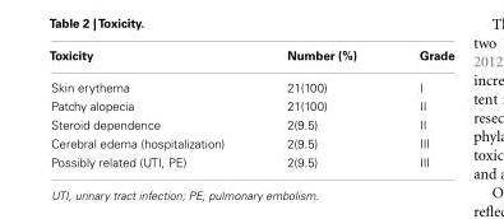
<table><thead><tr><td>Toxicity</td><td>Number (%)</td><td>Grade</td></tr></thead><tbody><tr><td>Skin erythema</td><td>21(100)</td><td>I</td></tr><tr><td>Patchy alopecia</td><td>21(100)</td><td>II</td></tr><tr><td>Steroid dependence</td><td>2(9.5)</td><td>II</td></tr><tr><td>Cerebral edema (hospitalization)</td><td>2(9.5)</td><td>III</td></tr><tr><td>Possibly related (UTI, PE)</td><td>2(9.5)</td><td>III</td></tr></tbody></table>